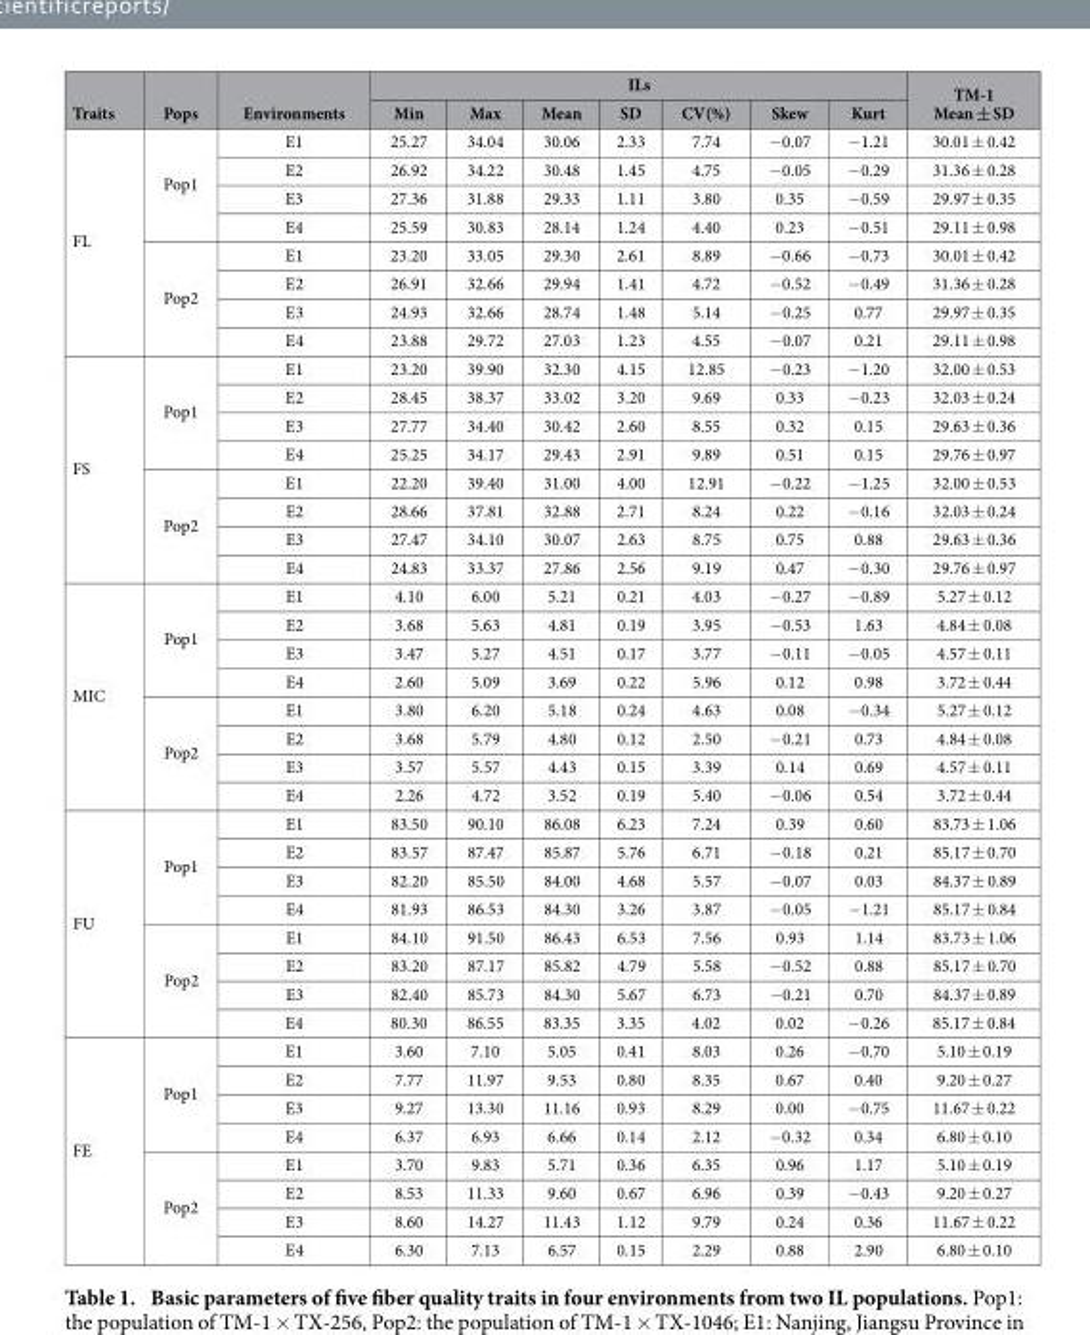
<table><thead><tr><td rowspan="2">Traits</td><td rowspan="2">Pops</td><td rowspan="2">Environments</td><td colspan="7">ILs</td><td rowspan="2">TM-1 Mean ± SD</td></tr><tr><td>Min</td><td>Max</td><td>Mean</td><td>SD</td><td>CV(%)</td><td>Skew</td><td>Kurt</td></tr></thead><tbody><tr><td rowspan="8">FL</td><td rowspan="4">Pop1</td><td>E1</td><td>25.27</td><td>34.04</td><td>30.06</td><td>2.33</td><td>7.74</td><td>− 0.07</td><td>− 1.21</td><td>30.01 ± 0.42</td></tr><tr><td>E2</td><td>26.92</td><td>34.22</td><td>30.48</td><td>1.45</td><td>4.75</td><td>− 0.05</td><td>− 0.29</td><td>31.36 ± 0.28</td></tr><tr><td>E3</td><td>27.36</td><td>31.88</td><td>29.33</td><td>1.11</td><td>3.80</td><td>0.35</td><td>− 0.59</td><td>29.97 ± 0.35</td></tr><tr><td>E4</td><td>25.59</td><td>30.83</td><td>28.14</td><td>1.24</td><td>4.40</td><td>0.23</td><td>− 0.51</td><td>29.11 ± 0.98</td></tr><tr><td rowspan="4">Pop2</td><td>E1</td><td>23.20</td><td>33.05</td><td>29.30</td><td>2.61</td><td>8.89</td><td>− 0.66</td><td>− 0.73</td><td>30.01 ± 0.42</td></tr><tr><td>E2</td><td>26.91</td><td>32.66</td><td>29.94</td><td>1.41</td><td>4.72</td><td>− 0.52</td><td>− 0.49</td><td>31.36 ± 0.28</td></tr><tr><td>E3</td><td>24.93</td><td>32.66</td><td>28.74</td><td>1.48</td><td>5.14</td><td>− 0.25</td><td>0.77</td><td>29.97 ± 0.35</td></tr><tr><td>E4</td><td>23.88</td><td>29.72</td><td>27.03</td><td>1.23</td><td>4.55</td><td>− 0.07</td><td>0.21</td><td>29.11 ± 0.98</td></tr><tr><td rowspan="8">FS</td><td rowspan="4">Pop1</td><td>E1</td><td>23.20</td><td>39.90</td><td>32.30</td><td>4.15</td><td>12.85</td><td>− 0.23</td><td>− 1.20</td><td>32.00 ± 0.53</td></tr><tr><td>E2</td><td>28.45</td><td>38.37</td><td>33.02</td><td>3.20</td><td>9.69</td><td>0.33</td><td>− 0.23</td><td>32.03 ± 0.24</td></tr><tr><td>E3</td><td>27.77</td><td>34.40</td><td>30.42</td><td>2.60</td><td>8.55</td><td>0.32</td><td>0.15</td><td>29.63 ± 0.36</td></tr><tr><td>E4</td><td>25.25</td><td>34.17</td><td>29.43</td><td>2.91</td><td>9.89</td><td>0.51</td><td>0.15</td><td>29.76 ± 0.97</td></tr><tr><td rowspan="4">Pop2</td><td>E1</td><td>22.20</td><td>39.40</td><td>31.00</td><td>4.00</td><td>12.91</td><td>− 0.22</td><td>− 1.25</td><td>32.00 ± 0.53</td></tr><tr><td>E2</td><td>28.66</td><td>37.81</td><td>32.88</td><td>2.71</td><td>8.24</td><td>0.22</td><td>− 0.16</td><td>32.03 ± 0.24</td></tr><tr><td>E3</td><td>27.47</td><td>34.10</td><td>30.07</td><td>2.63</td><td>8.75</td><td>0.75</td><td>0.88</td><td>29.63 ± 0.36</td></tr><tr><td>E4</td><td>24.83</td><td>33.37</td><td>27.86</td><td>2.56</td><td>9.19</td><td>0.47</td><td>− 0.30</td><td>29.76 ± 0.97</td></tr><tr><td rowspan="8">MIC</td><td rowspan="4">Pop1</td><td>E1</td><td>4.10</td><td>6.00</td><td>5.21</td><td>0.21</td><td>4.03</td><td>− 0.27</td><td>− 0.89</td><td>5.27 ± 0.12</td></tr><tr><td>E2</td><td>3.68</td><td>5.63</td><td>4.81</td><td>0.19</td><td>3.95</td><td>− 0.53</td><td>1.63</td><td>4.84 ± 0.08</td></tr><tr><td>E3</td><td>3.47</td><td>5.27</td><td>4.51</td><td>0.17</td><td>3.77</td><td>− 0.11</td><td>− 0.05</td><td>4.57 ± 0.11</td></tr><tr><td>E4</td><td>2.60</td><td>5.09</td><td>3.69</td><td>0.22</td><td>5.96</td><td>0.12</td><td>0.98</td><td>3.72 ± 0.44</td></tr><tr><td rowspan="4">Pop2</td><td>E1</td><td>3.80</td><td>6.20</td><td>5.18</td><td>0.24</td><td>4.63</td><td>0.08</td><td>− 0.34</td><td>5.27 ± 0.12</td></tr><tr><td>E2</td><td>3.68</td><td>5.79</td><td>4.80</td><td>0.12</td><td>2.50</td><td>− 0.21</td><td>0.73</td><td>4.84 ± 0.08</td></tr><tr><td>E3</td><td>3.57</td><td>5.57</td><td>4.43</td><td>0.15</td><td>3.39</td><td>0.14</td><td>0.69</td><td>4.57 ± 0.11</td></tr><tr><td>E4</td><td>2.26</td><td>4.72</td><td>3.52</td><td>0.19</td><td>5.40</td><td>− 0.06</td><td>0.54</td><td>3.72 ± 0.44</td></tr><tr><td rowspan="8">FU</td><td rowspan="4">Pop1</td><td>E1</td><td>83.50</td><td>90.10</td><td>86.08</td><td>6.23</td><td>7.24</td><td>0.39</td><td>0.60</td><td>83.73 ± 1.06</td></tr><tr><td>E2</td><td>83.57</td><td>87.47</td><td>85.87</td><td>5.76</td><td>6.71</td><td>− 0.18</td><td>0.21</td><td>85.17 ± 0.70</td></tr><tr><td>E3</td><td>82.20</td><td>85.50</td><td>84.00</td><td>4.68</td><td>5.57</td><td>− 0.07</td><td>0.03</td><td>84.37 ± 0.89</td></tr><tr><td>E4</td><td>81.93</td><td>86.53</td><td>84.30</td><td>3.26</td><td>3.87</td><td>− 0.05</td><td>− 1.21</td><td>85.17 ± 0.84</td></tr><tr><td rowspan="4">Pop2</td><td>E1</td><td>84.10</td><td>91.50</td><td>86.43</td><td>6.53</td><td>7.56</td><td>0.93</td><td>1.14</td><td>83.73 ± 1.06</td></tr><tr><td>E2</td><td>83.20</td><td>87.17</td><td>85.82</td><td>4.79</td><td>5.58</td><td>− 0.52</td><td>0.88</td><td>85.17 ± 0.70</td></tr><tr><td>E3</td><td>82.40</td><td>85.73</td><td>84.30</td><td>5.67</td><td>6.73</td><td>− 0.21</td><td>0.70</td><td>84.37 ± 0.89</td></tr><tr><td>E4</td><td>80.30</td><td>86.55</td><td>83.35</td><td>3.35</td><td>4.02</td><td>0.02</td><td>− 0.26</td><td>85.17 ± 0.84</td></tr><tr><td rowspan="8">FE</td><td rowspan="4">Pop1</td><td>E1</td><td>3.60</td><td>7.10</td><td>5.05</td><td>0.41</td><td>8.03</td><td>0.26</td><td>− 0.70</td><td>5.10 ± 0.19</td></tr><tr><td>E2</td><td>7.77</td><td>11.97</td><td>9.53</td><td>0.80</td><td>8.35</td><td>0.67</td><td>0.40</td><td>9.20 ± 0.27</td></tr><tr><td>E3</td><td>9.27</td><td>13.30</td><td>11.16</td><td>0.93</td><td>8.29</td><td>0.00</td><td>− 0.75</td><td>11.67 ± 0.22</td></tr><tr><td>E4</td><td>6.37</td><td>6.93</td><td>6.66</td><td>0.14</td><td>2.12</td><td>− 0.32</td><td>0.34</td><td>6.80 ± 0.10</td></tr><tr><td rowspan="4">Pop2</td><td>E1</td><td>3.70</td><td>9.83</td><td>5.71</td><td>0.36</td><td>6.35</td><td>0.96</td><td>1.17</td><td>5.10 ± 0.19</td></tr><tr><td>E2</td><td>8.53</td><td>11.33</td><td>9.60</td><td>0.67</td><td>6.96</td><td>0.39</td><td>− 0.43</td><td>9.20 ± 0.27</td></tr><tr><td>E3</td><td>8.60</td><td>14.27</td><td>11.43</td><td>1.12</td><td>9.79</td><td>0.24</td><td>0.36</td><td>11.67 ± 0.22</td></tr><tr><td>E4</td><td>6.30</td><td>7.13</td><td>6.57</td><td>0.15</td><td>2.29</td><td>0.88</td><td>2.90</td><td>6.80 ± 0.10</td></tr></tbody></table>